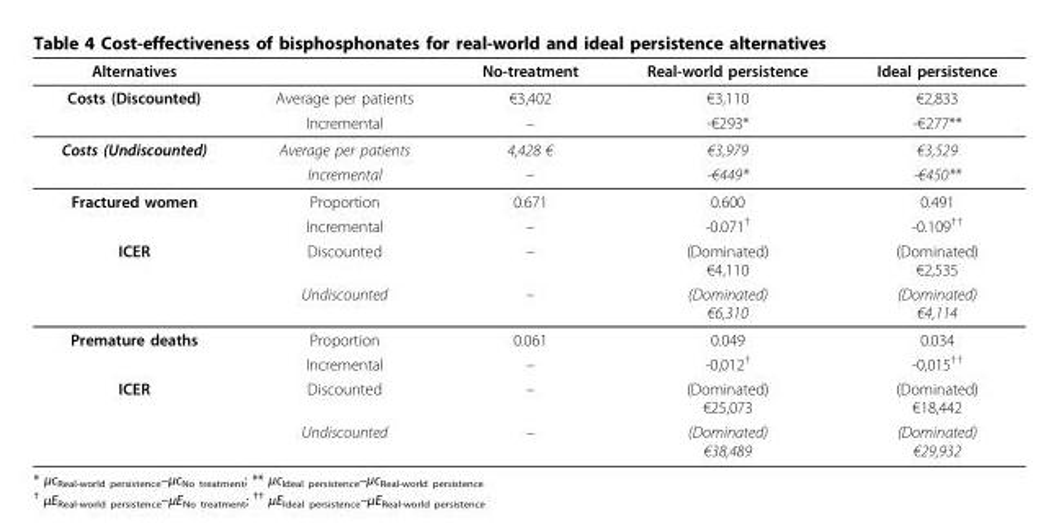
<table><thead><tr><td>Alternatives</td><td></td><td>No-treatment</td><td>Real-world persistence</td><td>Ideal persistence</td></tr></thead><tbody><tr><td rowspan="2">Costs (Discounted)</td><td>Average per patients</td><td>€3,402</td><td>€3,110</td><td>€2,833</td></tr><tr><td>Incremental</td><td>–</td><td>-€293*</td><td>-€277**</td></tr><tr><td rowspan="2">Costs (Undiscounted)</td><td>Average per patients</td><td>4,428 €</td><td>€3,979</td><td>€3,529</td></tr><tr><td>Incremental</td><td>–</td><td>-€449*</td><td>-€450**</td></tr><tr><td rowspan="2">Fractured women</td><td>Proportion</td><td>0.671</td><td>0.600</td><td>0.491</td></tr><tr><td>Incremental</td><td>–</td><td>-0.071<sup>†</sup></td><td>-0.109<sup>††</sup></td></tr><tr><td rowspan="2">ICER</td><td>Discounted</td><td>–</td><td>(Dominated) €4,110</td><td>(Dominated) €2,535</td></tr><tr><td>Undiscounted</td><td>–</td><td>(Dominated) €6,310</td><td>(Dominated) €4,114</td></tr><tr><td rowspan="2">Premature deaths</td><td>Proportion</td><td>0.061</td><td>0.049</td><td>0.034</td></tr><tr><td>Incremental</td><td>–</td><td>-0,012<sup>†</sup></td><td>-0,015<sup>††</sup></td></tr><tr><td rowspan="2">ICER</td><td>Discounted</td><td>–</td><td>(Dominated) €25,073</td><td>(Dominated) €18,442</td></tr><tr><td>Undiscounted</td><td>–</td><td>(Dominated) €38,489</td><td>(Dominated) €29,932</td></tr></tbody></table>